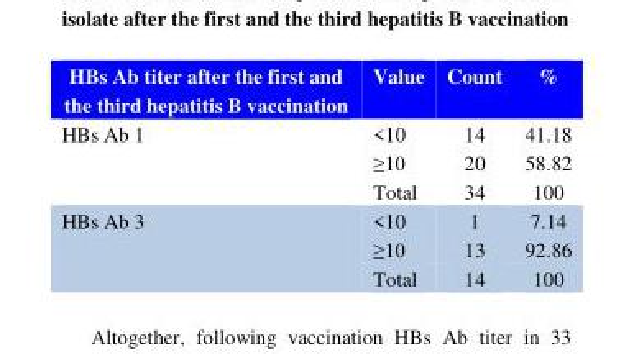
<table><thead><tr><td>HBs Ab titer after the first and the third hepatitis B vaccination</td><td>Value</td><td>Count</td><td>%</td></tr></thead><tbody><tr><td rowspan="3">HBs Ab 1</td><td>&lt;10</td><td>14</td><td>41.18</td></tr><tr><td>≥10</td><td>20</td><td>58.82</td></tr><tr><td>Total</td><td>34</td><td>100</td></tr><tr><td rowspan="3">HBs Ab 3</td><td>&lt;10</td><td>1</td><td>7.14</td></tr><tr><td>≥10</td><td>13</td><td>92.86</td></tr><tr><td>Total</td><td>14</td><td>100</td></tr></tbody></table>